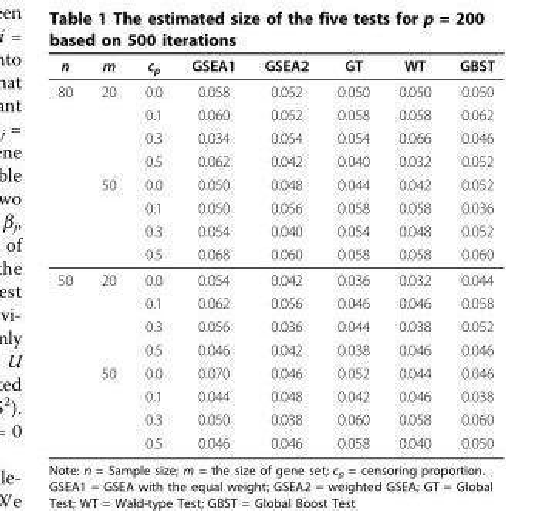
<table><thead><tr><td>n</td><td>m</td><td>c<sub>p</sub></td><td>GSEA1</td><td>GSEA2</td><td>GT</td><td>WT</td><td>GBST</td></tr></thead><tbody><tr><td rowspan="8">80</td><td>20</td><td>0.0</td><td>0.058</td><td>0.052</td><td>0.050</td><td>0.050</td><td>0.050</td></tr><tr><td></td><td>0.1</td><td>0.060</td><td>0.052</td><td>0.058</td><td>0.058</td><td>0.062</td></tr><tr><td></td><td>0.3</td><td>0.034</td><td>0.054</td><td>0.054</td><td>0.066</td><td>0.046</td></tr><tr><td></td><td>0.5</td><td>0.062</td><td>0.042</td><td>0.040</td><td>0.032</td><td>0.052</td></tr><tr><td>50</td><td>0.0</td><td>0.050</td><td>0.048</td><td>0.044</td><td>0.042</td><td>0.052</td></tr><tr><td></td><td>0.1</td><td>0.050</td><td>0.056</td><td>0.058</td><td>0.058</td><td>0.036</td></tr><tr><td></td><td>0.3</td><td>0.054</td><td>0.040</td><td>0.054</td><td>0.048</td><td>0.052</td></tr><tr><td></td><td>0.5</td><td>0.068</td><td>0.060</td><td>0.058</td><td>0.058</td><td>0.060</td></tr><tr><td rowspan="8">50</td><td>20</td><td>0.0</td><td>0.054</td><td>0.042</td><td>0.036</td><td>0.032</td><td>0.044</td></tr><tr><td></td><td>0.1</td><td>0.062</td><td>0.056</td><td>0.046</td><td>0.046</td><td>0.058</td></tr><tr><td></td><td>0.3</td><td>0.056</td><td>0.036</td><td>0.044</td><td>0.038</td><td>0.052</td></tr><tr><td></td><td>0.5</td><td>0.046</td><td>0.042</td><td>0.038</td><td>0.046</td><td>0.046</td></tr><tr><td>50</td><td>0.0</td><td>0.070</td><td>0.046</td><td>0.052</td><td>0.044</td><td>0.046</td></tr><tr><td></td><td>0.1</td><td>0.044</td><td>0.048</td><td>0.042</td><td>0.046</td><td>0.038</td></tr><tr><td></td><td>0.3</td><td>0.050</td><td>0.038</td><td>0.060</td><td>0.058</td><td>0.060</td></tr><tr><td></td><td>0.5</td><td>0.046</td><td>0.046</td><td>0.058</td><td>0.040</td><td>0.050</td></tr></tbody></table>